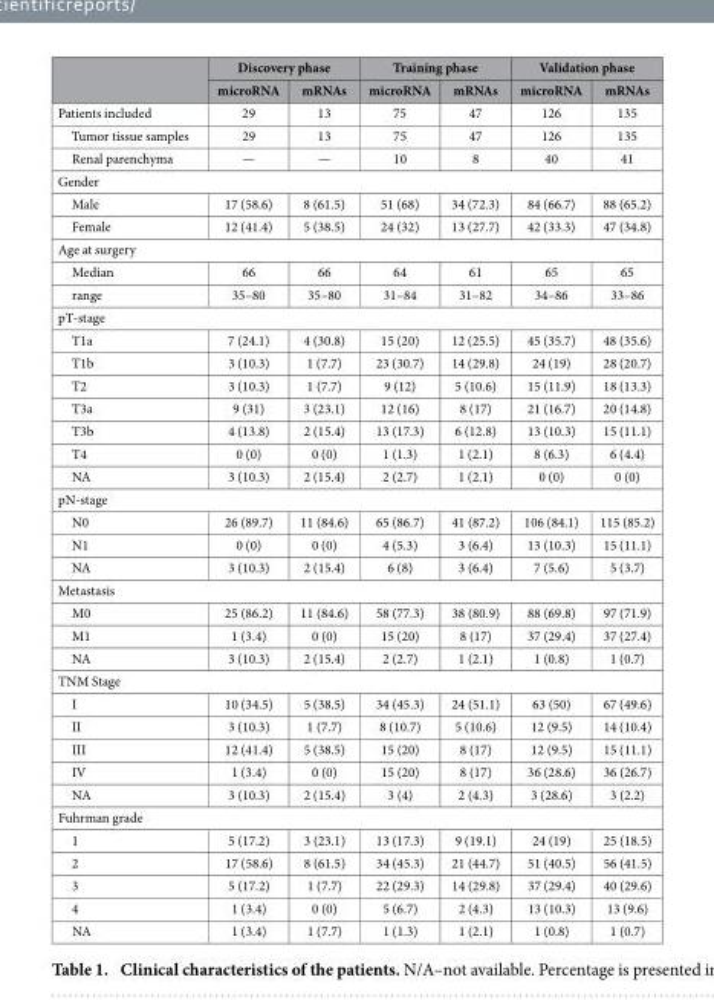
<table><thead><tr><td rowspan="2"></td><td colspan="2">Discovery phase</td><td colspan="2">Training phase</td><td colspan="2">Validation phase</td></tr><tr><td>microRNA</td><td>mRNAs</td><td>microRNA</td><td>mRNAs</td><td>microRNA</td><td>mRNAs</td></tr></thead><tbody><tr><td>Patients included</td><td>29</td><td>13</td><td>75</td><td>47</td><td>126</td><td>135</td></tr><tr><td>Tumor tissue samples</td><td>29</td><td>13</td><td>75</td><td>47</td><td>126</td><td>135</td></tr><tr><td>Renal parenchyma</td><td>—</td><td>—</td><td>10</td><td>8</td><td>40</td><td>41</td></tr><tr><td colspan="7">Gender</td></tr><tr><td>Male</td><td>17 (58.6)</td><td>8 (61.5)</td><td>51 (68)</td><td>34 (72.3)</td><td>84 (66.7)</td><td>88 (65.2)</td></tr><tr><td>Female</td><td>12 (41.4)</td><td>5 (38.5)</td><td>24 (32)</td><td>13 (27.7)</td><td>42 (33.3)</td><td>47 (34.8)</td></tr><tr><td colspan="7">Age at surgery</td></tr><tr><td>Median</td><td>66</td><td>66</td><td>64</td><td>61</td><td>65</td><td>65</td></tr><tr><td>range</td><td>35–80</td><td>35–80</td><td>31–84</td><td>31–82</td><td>34–86</td><td>33–86</td></tr><tr><td colspan="7">pT-stage</td></tr><tr><td>T1a</td><td>7 (24.1)</td><td>4 (30.8)</td><td>15 (20)</td><td>12 (25.5)</td><td>45 (35.7)</td><td>48 (35.6)</td></tr><tr><td>T1b</td><td>3 (10.3)</td><td>1 (7.7)</td><td>23 (30.7)</td><td>14 (29.8)</td><td>24 (19)</td><td>28 (20.7)</td></tr><tr><td>T2</td><td>3 (10.3)</td><td>1 (7.7)</td><td>9 (12)</td><td>5 (10.6)</td><td>15 (11.9)</td><td>18 (13.3)</td></tr><tr><td>T3a</td><td>9 (31)</td><td>3 (23.1)</td><td>12 (16)</td><td>8 (17)</td><td>21 (16.7)</td><td>20 (14.8)</td></tr><tr><td>T3b</td><td>4 (13.8)</td><td>2 (15.4)</td><td>13 (17.3)</td><td>6 (12.8)</td><td>13 (10.3)</td><td>15 (11.1)</td></tr><tr><td>T4</td><td>0 (0)</td><td>0 (0)</td><td>1 (1.3)</td><td>1 (2.1)</td><td>8 (6.3)</td><td>6 (4.4)</td></tr><tr><td>NA</td><td>3 (10.3)</td><td>2 (15.4)</td><td>2 (2.7)</td><td>1 (2.1)</td><td>0 (0)</td><td>0 (0)</td></tr><tr><td colspan="7">pN-stage</td></tr><tr><td>N0</td><td>26 (89.7)</td><td>11 (84.6)</td><td>65 (86.7)</td><td>41 (87.2)</td><td>106 (84.1)</td><td>115 (85.2)</td></tr><tr><td>N1</td><td>0 (0)</td><td>0 (0)</td><td>4 (5.3)</td><td>3 (6.4)</td><td>13 (10.3)</td><td>15 (11.1)</td></tr><tr><td>NA</td><td>3 (10.3)</td><td>2 (15.4)</td><td>6 (8)</td><td>3 (6.4)</td><td>7 (5.6)</td><td>5 (3.7)</td></tr><tr><td colspan="7">Metastasis</td></tr><tr><td>M0</td><td>25 (86.2)</td><td>11 (84.6)</td><td>58 (77.3)</td><td>38 (80.9)</td><td>88 (69.8)</td><td>97 (71.9)</td></tr><tr><td>M1</td><td>1 (3.4)</td><td>0 (0)</td><td>15 (20)</td><td>8 (17)</td><td>37 (29.4)</td><td>37 (27.4)</td></tr><tr><td>NA</td><td>3 (10.3)</td><td>2 (15.4)</td><td>2 (2.7)</td><td>1 (2.1)</td><td>1 (0.8)</td><td>1 (0.7)</td></tr><tr><td colspan="7">TNM Stage</td></tr><tr><td>I</td><td>10 (34.5)</td><td>5 (38.5)</td><td>34 (45.3)</td><td>24 (51.1)</td><td>63 (50)</td><td>67 (49.6)</td></tr><tr><td>II</td><td>3 (10.3)</td><td>1 (7.7)</td><td>8 (10.7)</td><td>5 (10.6)</td><td>12 (9.5)</td><td>14 (10.4)</td></tr><tr><td>III</td><td>12 (41.4)</td><td>5 (38.5)</td><td>15 (20)</td><td>8 (17)</td><td>12 (9.5)</td><td>15 (11.1)</td></tr><tr><td>IV</td><td>1 (3.4)</td><td>0 (0)</td><td>15 (20)</td><td>8 (17)</td><td>36 (28.6)</td><td>36 (26.7)</td></tr><tr><td>NA</td><td>3 (10.3)</td><td>2 (15.4)</td><td>3 (4)</td><td>2 (4.3)</td><td>3 (28.6)</td><td>3 (2.2)</td></tr><tr><td colspan="7">Fuhrman grade</td></tr><tr><td>1</td><td>5 (17.2)</td><td>3 (23.1)</td><td>13 (17.3)</td><td>9 (19.1)</td><td>24 (19)</td><td>25 (18.5)</td></tr><tr><td>2</td><td>17 (58.6)</td><td>8 (61.5)</td><td>34 (45.3)</td><td>21 (44.7)</td><td>51 (40.5)</td><td>56 (41.5)</td></tr><tr><td>3</td><td>5 (17.2)</td><td>1 (7.7)</td><td>22 (29.3)</td><td>14 (29.8)</td><td>37 (29.4)</td><td>40 (29.6)</td></tr><tr><td>4</td><td>1 (3.4)</td><td>0 (0)</td><td>5 (6.7)</td><td>2 (4.3)</td><td>13 (10.3)</td><td>13 (9.6)</td></tr><tr><td>NA</td><td>1 (3.4)</td><td>1 (7.7)</td><td>1 (1.3)</td><td>1 (2.1)</td><td>1 (0.8)</td><td>1 (0.7)</td></tr></tbody></table>